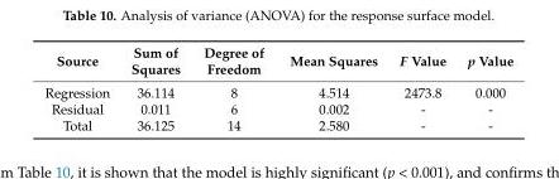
<table><thead><tr><td>Source</td><td>Sum of Squares</td><td>Degree of Freedom</td><td>Mean Squares</td><td>F Value</td><td>p Value</td></tr></thead><tbody><tr><td>Regression</td><td>36.114</td><td>8</td><td>4.514</td><td>2473.8</td><td>0.000</td></tr><tr><td>Residual</td><td>0.011</td><td>6</td><td>0.002</td><td>-</td><td>-</td></tr><tr><td>Total</td><td>36.125</td><td>14</td><td>2.580</td><td>-</td><td>-</td></tr></tbody></table>